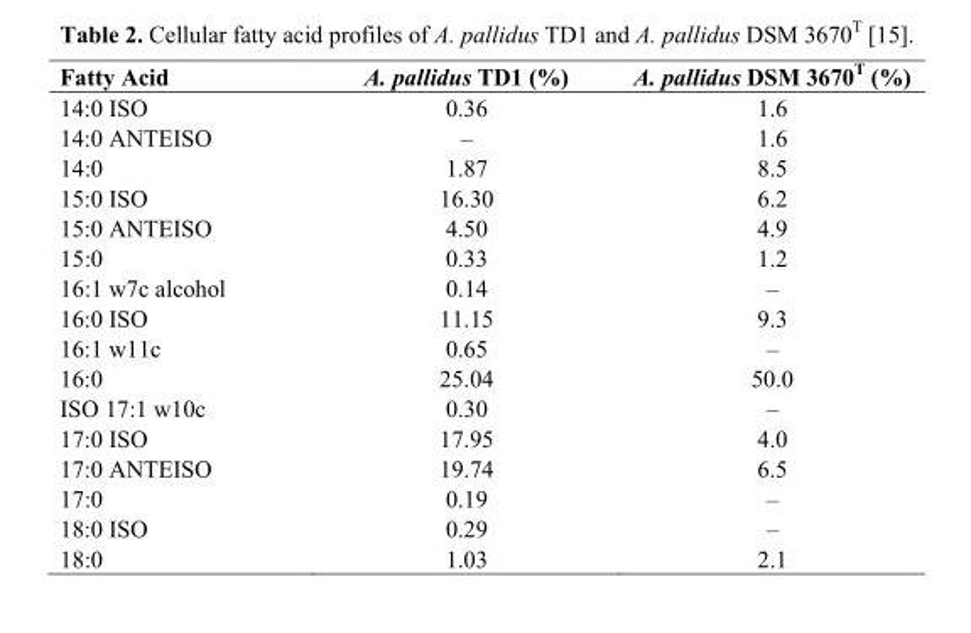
<table><thead><tr><td>Fatty Acid</td><td>A. pallidus TD1 (%)</td><td>A. pallidus DSM 3670<sup>T</sup> (%)</td></tr></thead><tbody><tr><td>14:0 ISO</td><td>0.36</td><td>1.6</td></tr><tr><td>14:0 ANTEISO</td><td>–</td><td>1.6</td></tr><tr><td>14:0</td><td>1.87</td><td>8.5</td></tr><tr><td>15:0 ISO</td><td>16.30</td><td>6.2</td></tr><tr><td>15:0 ANTEISO</td><td>4.50</td><td>4.9</td></tr><tr><td>15:0</td><td>0.33</td><td>1.2</td></tr><tr><td>16:1 w7c alcohol</td><td>0.14</td><td>–</td></tr><tr><td>16:0 ISO</td><td>11.15</td><td>9.3</td></tr><tr><td>16:1 w11c</td><td>0.65</td><td>–</td></tr><tr><td>16:0</td><td>25.04</td><td>50.0</td></tr><tr><td>ISO 17:1 w10c</td><td>0.30</td><td>–</td></tr><tr><td>17:0 ISO</td><td>17.95</td><td>4.0</td></tr><tr><td>17:0 ANTEISO</td><td>19.74</td><td>6.5</td></tr><tr><td>17:0</td><td>0.19</td><td>–</td></tr><tr><td>18:0 ISO</td><td>0.29</td><td>–</td></tr><tr><td>18:0</td><td>1.03</td><td>2.1</td></tr></tbody></table>